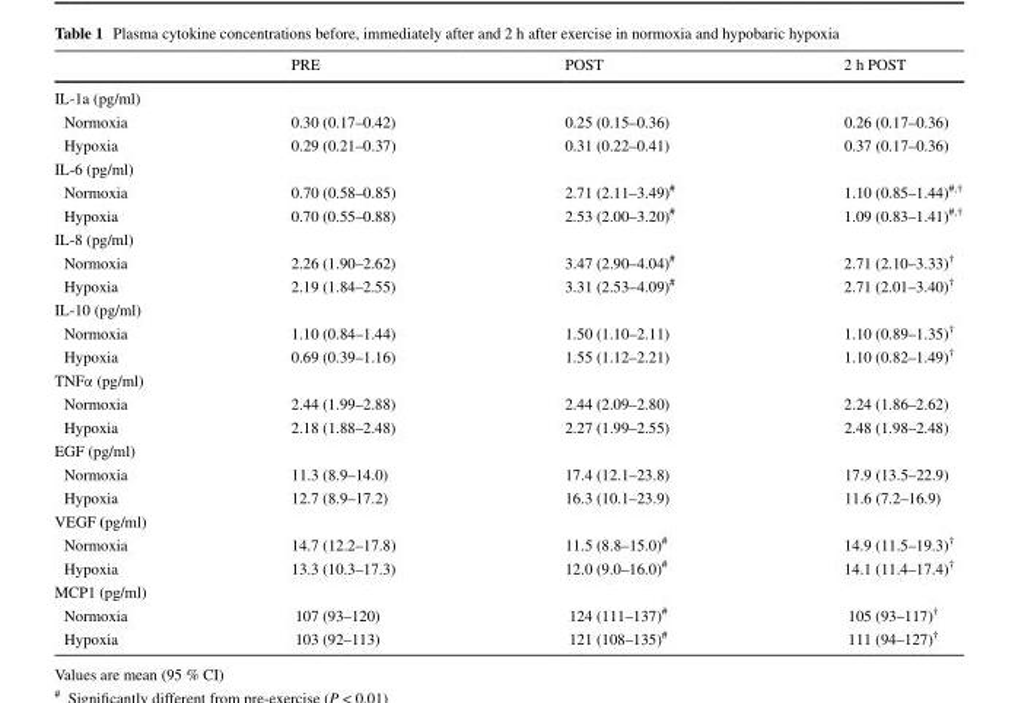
<table><thead><tr><td></td><td>PRE</td><td>POST</td><td>2 h POST</td></tr></thead><tbody><tr><td colspan="4">IL-1a (pg/ml)</td></tr><tr><td>Normoxia</td><td>0.30 (0.17–0.42)</td><td>0.25 (0.15–0.36)</td><td>0.26 (0.17–0.36)</td></tr><tr><td>Hypoxia</td><td>0.29 (0.21–0.37)</td><td>0.31 (0.22–0.41)</td><td>0.37 (0.17–0.36)</td></tr><tr><td colspan="4">IL-6 (pg/ml)</td></tr><tr><td>Normoxia</td><td>0.70 (0.58–0.85)</td><td>2.71 (2.11–3.49)<sup>#</sup></td><td>1.10 (0.85–1.44)<sup>#,†</sup></td></tr><tr><td>Hypoxia</td><td>0.70 (0.55–0.88)</td><td>2.53 (2.00–3.20)<sup>#</sup></td><td>1.09 (0.83–1.41)<sup>#,†</sup></td></tr><tr><td colspan="4">IL-8 (pg/ml)</td></tr><tr><td>Normoxia</td><td>2.26 (1.90–2.62)</td><td>3.47 (2.90–4.04)<sup>#</sup></td><td>2.71 (2.10–3.33)<sup>†</sup></td></tr><tr><td>Hypoxia</td><td>2.19 (1.84–2.55)</td><td>3.31 (2.53–4.09)<sup>#</sup></td><td>2.71 (2.01–3.40)<sup>†</sup></td></tr><tr><td colspan="4">IL-10 (pg/ml)</td></tr><tr><td>Normoxia</td><td>1.10 (0.84–1.44)</td><td>1.50 (1.10–2.11)</td><td>1.10 (0.89–1.35)<sup>†</sup></td></tr><tr><td>Hypoxia</td><td>0.69 (0.39–1.16)</td><td>1.55 (1.12–2.21)</td><td>1.10 (0.82–1.49)<sup>†</sup></td></tr><tr><td colspan="4">TNFα (pg/ml)</td></tr><tr><td>Normoxia</td><td>2.44 (1.99–2.88)</td><td>2.44 (2.09–2.80)</td><td>2.24 (1.86–2.62)</td></tr><tr><td>Hypoxia</td><td>2.18 (1.88–2.48)</td><td>2.27 (1.99–2.55)</td><td>2.48 (1.98–2.48)</td></tr><tr><td colspan="4">EGF (pg/ml)</td></tr><tr><td>Normoxia</td><td>11.3 (8.9–14.0)</td><td>17.4 (12.1–23.8)</td><td>17.9 (13.5–22.9)</td></tr><tr><td>Hypoxia</td><td>12.7 (8.9–17.2)</td><td>16.3 (10.1–23.9)</td><td>11.6 (7.2–16.9)</td></tr><tr><td colspan="4">VEGF (pg/ml)</td></tr><tr><td>Normoxia</td><td>14.7 (12.2–17.8)</td><td>11.5 (8.8–15.0)<sup>#</sup></td><td>14.9 (11.5–19.3)<sup>†</sup></td></tr><tr><td>Hypoxia</td><td>13.3 (10.3–17.3)</td><td>12.0 (9.0–16.0)<sup>#</sup></td><td>14.1 (11.4–17.4)<sup>†</sup></td></tr><tr><td colspan="4">MCP1 (pg/ml)</td></tr><tr><td>Normoxia</td><td>107 (93–120)</td><td>124 (111–137)<sup>#</sup></td><td>105 (93–117)<sup>†</sup></td></tr><tr><td>Hypoxia</td><td>103 (92–113)</td><td>121 (108–135)<sup>#</sup></td><td>111 (94–127)<sup>†</sup></td></tr></tbody></table>